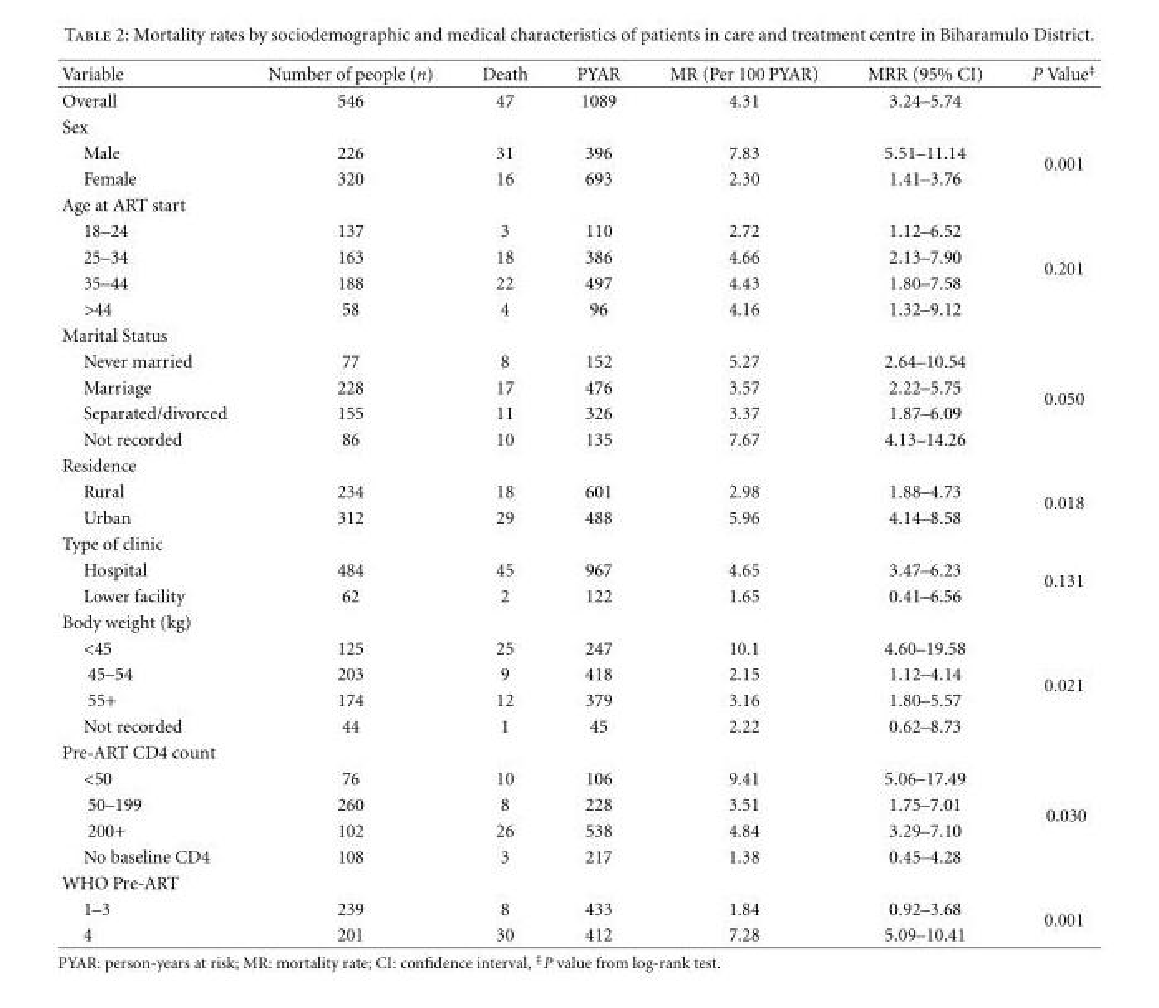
<table><thead><tr><td>Variable</td><td>Number of people (n)</td><td>Death</td><td>PYAR</td><td>MR (Per 100 PYAR)</td><td>MRR (95% CI)</td><td>P Value<sup>‡</sup></td></tr></thead><tbody><tr><td>Overall</td><td>546</td><td>47</td><td>1089</td><td>4.31</td><td>3.24–5.74</td><td></td></tr><tr><td colspan="7">Sex</td></tr><tr><td>Male</td><td>226</td><td>31</td><td>396</td><td>7.83</td><td>5.51–11.14</td><td rowspan="2">0.001</td></tr><tr><td>Female</td><td>320</td><td>16</td><td>693</td><td>2.30</td><td>1.41–3.76</td></tr><tr><td colspan="7">Age at ART start</td></tr><tr><td>18–24</td><td>137</td><td>3</td><td>110</td><td>2.72</td><td>1.12–6.52</td><td rowspan="4">0.201</td></tr><tr><td>25–34</td><td>163</td><td>18</td><td>386</td><td>4.66</td><td>2.13–7.90</td></tr><tr><td>35–44</td><td>188</td><td>22</td><td>497</td><td>4.43</td><td>1.80–7.58</td></tr><tr><td>&gt;44</td><td>58</td><td>4</td><td>96</td><td>4.16</td><td>1.32–9.12</td></tr><tr><td colspan="7">Marital Status</td></tr><tr><td>Never married</td><td>77</td><td>8</td><td>152</td><td>5.27</td><td>2.64–10.54</td><td rowspan="4">0.050</td></tr><tr><td>Marriage</td><td>228</td><td>17</td><td>476</td><td>3.57</td><td>2.22–5.75</td></tr><tr><td>Separated/divorced</td><td>155</td><td>11</td><td>326</td><td>3.37</td><td>1.87–6.09</td></tr><tr><td>Not recorded</td><td>86</td><td>10</td><td>135</td><td>7.67</td><td>4.13–14.26</td></tr><tr><td colspan="7">Residence</td></tr><tr><td>Rural</td><td>234</td><td>18</td><td>601</td><td>2.98</td><td>1.88–4.73</td><td rowspan="2">0.018</td></tr><tr><td>Urban</td><td>312</td><td>29</td><td>488</td><td>5.96</td><td>4.14–8.58</td></tr><tr><td colspan="7">Type of clinic</td></tr><tr><td>Hospital</td><td>484</td><td>45</td><td>967</td><td>4.65</td><td>3.47–6.23</td><td rowspan="2">0.131</td></tr><tr><td>Lower facility</td><td>62</td><td>2</td><td>122</td><td>1.65</td><td>0.41–6.56</td></tr><tr><td colspan="7">Body weight (kg)</td></tr><tr><td>&lt;45</td><td>125</td><td>25</td><td>247</td><td>10.1</td><td>4.60–19.58</td><td rowspan="4">0.021</td></tr><tr><td>45–54</td><td>203</td><td>9</td><td>418</td><td>2.15</td><td>1.12–4.14</td></tr><tr><td>55+</td><td>174</td><td>12</td><td>379</td><td>3.16</td><td>1.80–5.57</td></tr><tr><td>Not recorded</td><td>44</td><td>1</td><td>45</td><td>2.22</td><td>0.62–8.73</td></tr><tr><td colspan="7">Pre-ART CD4 count</td></tr><tr><td>&lt;50</td><td>76</td><td>10</td><td>106</td><td>9.41</td><td>5.06–17.49</td><td rowspan="4">0.030</td></tr><tr><td>50–199</td><td>260</td><td>8</td><td>228</td><td>3.51</td><td>1.75–7.01</td></tr><tr><td>200+</td><td>102</td><td>26</td><td>538</td><td>4.84</td><td>3.29–7.10</td></tr><tr><td>No baseline CD4</td><td>108</td><td>3</td><td>217</td><td>1.38</td><td>0.45–4.28</td></tr><tr><td colspan="7">WHO Pre-ART</td></tr><tr><td>1–3</td><td>239</td><td>8</td><td>433</td><td>1.84</td><td>0.92–3.68</td><td rowspan="2">0.001</td></tr><tr><td>4</td><td>201</td><td>30</td><td>412</td><td>7.28</td><td>5.09–10.41</td></tr></tbody></table>